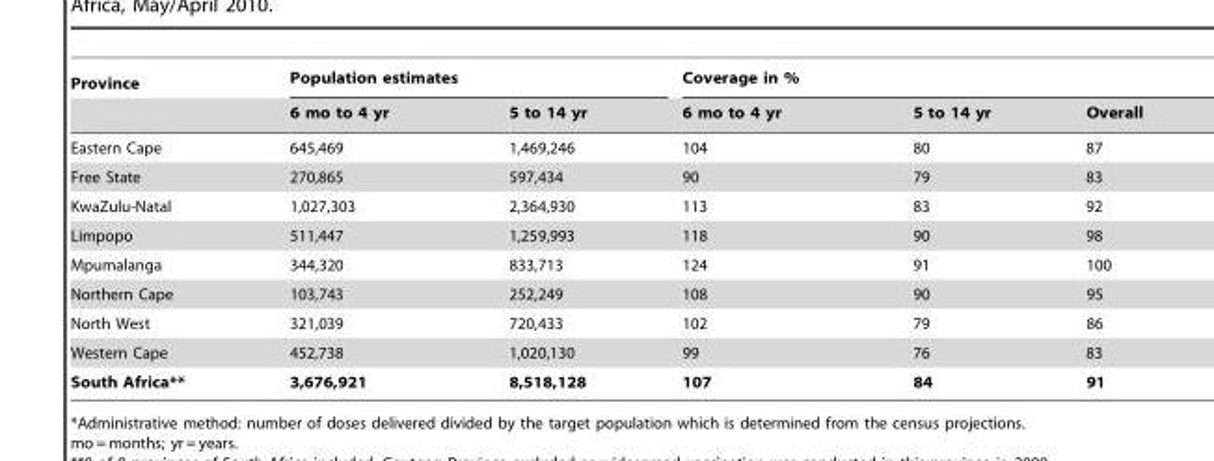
<table><thead><tr><td rowspan="2">Province</td><td colspan="2">Population estimates</td><td colspan="3">Coverage in %</td></tr><tr><td>6 mo to 4 yr</td><td>5 to 14 yr</td><td>6 mo to 4 yr</td><td>5 to 14 yr</td><td>Overall</td></tr></thead><tbody><tr><td>Eastern Cape</td><td>645,469</td><td>1,469,246</td><td>104</td><td>80</td><td>87</td></tr><tr><td>Free State</td><td>270,865</td><td>597,434</td><td>90</td><td>79</td><td>83</td></tr><tr><td>KwaZulu-Natal</td><td>1,027,303</td><td>2,364,930</td><td>113</td><td>83</td><td>92</td></tr><tr><td>Limpopo</td><td>511,447</td><td>1,259,993</td><td>118</td><td>90</td><td>98</td></tr><tr><td>Mpumalanga</td><td>344,320</td><td>833,713</td><td>124</td><td>91</td><td>100</td></tr><tr><td>Northern Cape</td><td>103,743</td><td>252,249</td><td>108</td><td>90</td><td>95</td></tr><tr><td>North West</td><td>321,039</td><td>720,433</td><td>102</td><td>79</td><td>86</td></tr><tr><td>Western Cape</td><td>452,738</td><td>1,020,130</td><td>99</td><td>76</td><td>83</td></tr><tr><td>South Africa**</td><td>3,676,921</td><td>8,518,128</td><td>107</td><td>84</td><td>91</td></tr></tbody></table>